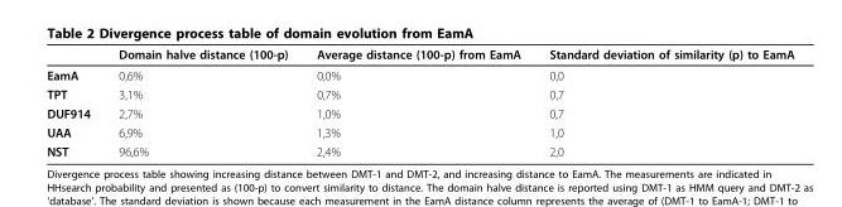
<table><thead><tr><td></td><td>Domain halve distance (100-p)</td><td>Average distance (100-p) from EamA</td><td>Standard deviation of similarity (p) to EamA</td></tr></thead><tbody><tr><td>EamA</td><td>0,6%</td><td>0,0%</td><td>0,0</td></tr><tr><td>TPT</td><td>3,1%</td><td>0,7%</td><td>0,7</td></tr><tr><td>DUF914</td><td>2,7%</td><td>1,0%</td><td>0,7</td></tr><tr><td>UAA</td><td>6,9%</td><td>1,3%</td><td>1,0</td></tr><tr><td>NST</td><td>96,6%</td><td>2,4%</td><td>2,0</td></tr></tbody></table>